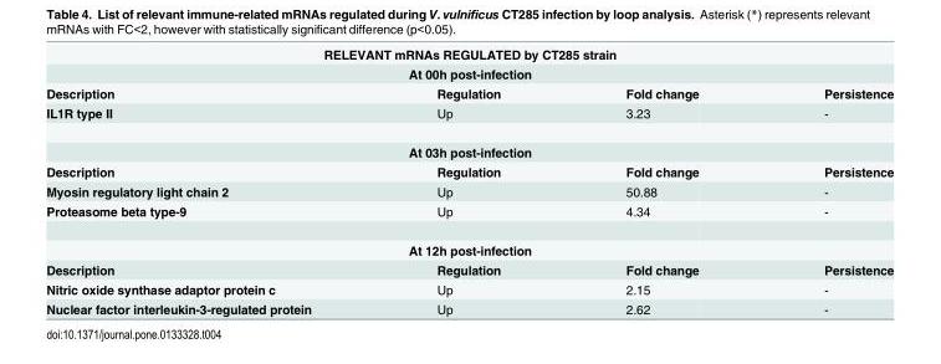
<table><tbody><tr><td colspan="4">RELEVANT mRNAs REGULATED by CT285 strain</td></tr><tr><td colspan="4">At 00h post-infection</td></tr><tr><td>Description</td><td>Regulation</td><td>Fold change</td><td>Persistence</td></tr><tr><td>IL1R type II</td><td>Up</td><td>3.23</td><td>-</td></tr><tr><td colspan="4">At 03h post-infection</td></tr><tr><td>Description</td><td>Regulation</td><td>Fold change</td><td>Persistence</td></tr><tr><td>Myosin regulatory light chain 2</td><td>Up</td><td>50.88</td><td>-</td></tr><tr><td>Proteasome beta type-9</td><td>Up</td><td>4.34</td><td>-</td></tr><tr><td colspan="4">At 12h post-infection</td></tr><tr><td>Description</td><td>Regulation</td><td>Fold change</td><td>Persistence</td></tr><tr><td>Nitric oxide synthase adaptor protein c</td><td>Up</td><td>2.15</td><td>-</td></tr><tr><td>Nuclear factor interleukin-3-regulated protein</td><td>Up</td><td>2.62</td><td>-</td></tr></tbody></table>